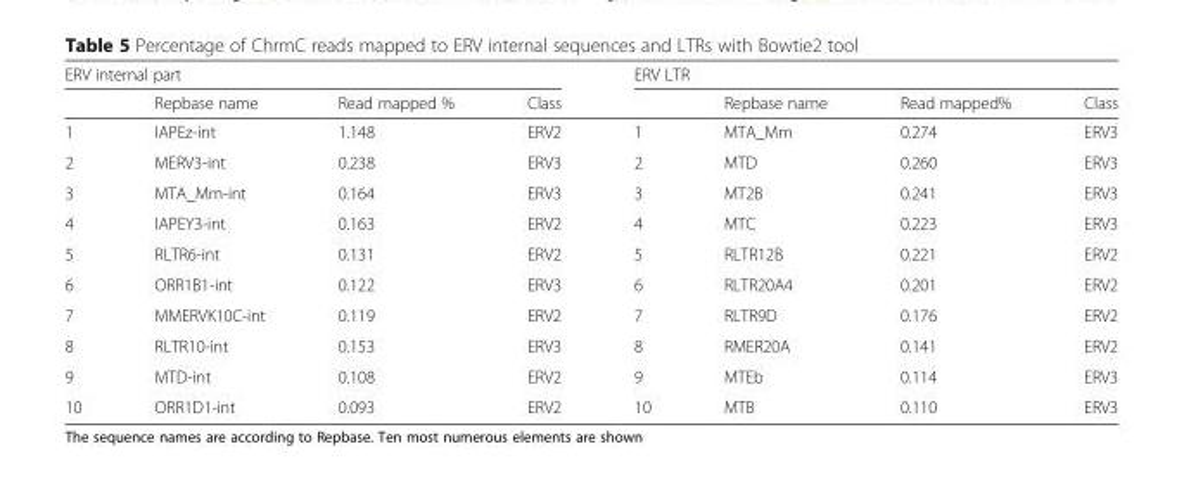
<table><thead><tr><td colspan="4">ERV internal part</td><td colspan="4">ERV LTR</td></tr><tr><td></td><td>Repbase name</td><td>Read mapped %</td><td>Class</td><td></td><td>Repbase name</td><td>Read mapped%</td><td>Class</td></tr></thead><tbody><tr><td>1</td><td>IAPEz-int</td><td>1.148</td><td>ERV2</td><td>1</td><td>MTA_Mm</td><td>0.274</td><td>ERV3</td></tr><tr><td>2</td><td>MERV3-int</td><td>0.238</td><td>ERV3</td><td>2</td><td>MTD</td><td>0.260</td><td>ERV3</td></tr><tr><td>3</td><td>MTA_Mm-int</td><td>0.164</td><td>ERV3</td><td>3</td><td>MT2B</td><td>0.241</td><td>ERV3</td></tr><tr><td>4</td><td>IAPEY3-int</td><td>0.163</td><td>ERV2</td><td>4</td><td>MTC</td><td>0.223</td><td>ERV3</td></tr><tr><td>5</td><td>RLTR6-int</td><td>0.131</td><td>ERV2</td><td>5</td><td>RLTR12B</td><td>0.221</td><td>ERV2</td></tr><tr><td>6</td><td>ORR1B1-int</td><td>0.122</td><td>ERV3</td><td>6</td><td>RLTR20A4</td><td>0.201</td><td>ERV2</td></tr><tr><td>7</td><td>MMERVK10C-int</td><td>0.119</td><td>ERV2</td><td>7</td><td>RLTR9D</td><td>0.176</td><td>ERV2</td></tr><tr><td>8</td><td>RLTR10-int</td><td>0.153</td><td>ERV3</td><td>8</td><td>RMER20A</td><td>0.141</td><td>ERV2</td></tr><tr><td>9</td><td>MTD-int</td><td>0.108</td><td>ERV2</td><td>9</td><td>MTEb</td><td>0.114</td><td>ERV3</td></tr><tr><td>10</td><td>ORR1D1-int</td><td>0.093</td><td>ERV2</td><td>10</td><td>MTB</td><td>0.110</td><td>ERV3</td></tr></tbody></table>